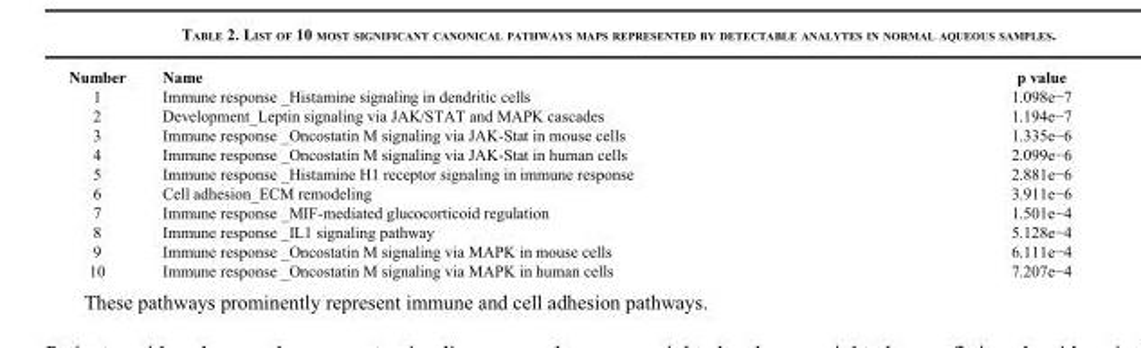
<table><thead><tr><td>Number</td><td>Name</td><td>p value</td></tr></thead><tbody><tr><td>1</td><td>Immune response _Histamine signaling in dendritic cells</td><td>1.098e−7</td></tr><tr><td>2</td><td>Development_Leptin signaling via JAK/STAT and MAPK cascades</td><td>1.194e−7</td></tr><tr><td>3</td><td>Immune response _Oncostatin M signaling via JAK-Stat in mouse cells</td><td>1.335e−6</td></tr><tr><td>4</td><td>Immune response _Oncostatin M signaling via JAK-Stat in human cells</td><td>2.099e−6</td></tr><tr><td>5</td><td>Immune response _Histamine H1 receptor signaling in immune response</td><td>2.881e−6</td></tr><tr><td>6</td><td>Cell adhesion_ECM remodeling</td><td>3.911e−6</td></tr><tr><td>7</td><td>Immune response _MIF-mediated glucocorticoid regulation</td><td>1.501e−4</td></tr><tr><td>8</td><td>Immune response _IL1 signaling pathway</td><td>5.128e−4</td></tr><tr><td>9</td><td>Immune response _Oncostatin M signaling via MAPK in mouse cells</td><td>6.111e−4</td></tr><tr><td>10</td><td>Immune response _Oncostatin M signaling via MAPK in human cells</td><td>7.207e−4</td></tr></tbody></table>